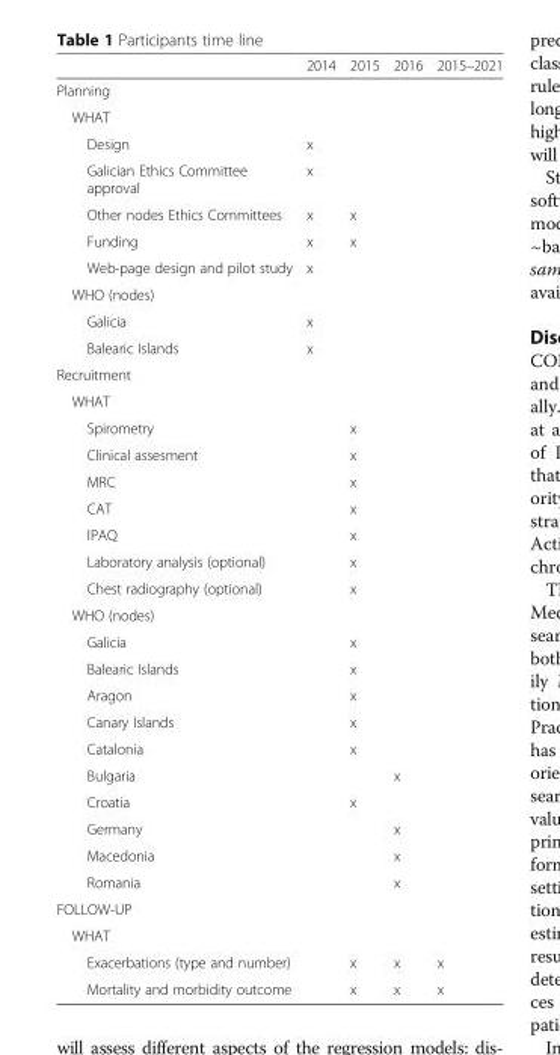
<table><thead><tr><td></td><td>2014</td><td>2015</td><td>2016</td><td>2015–2021</td></tr></thead><tbody><tr><td colspan="5">Planning</td></tr><tr><td colspan="5">WHAT</td></tr><tr><td>Design</td><td>x</td><td></td><td></td><td></td></tr><tr><td>Galician Ethics Committee approval</td><td>x</td><td></td><td></td><td></td></tr><tr><td>Other nodes Ethics Committees</td><td>x</td><td>x</td><td></td><td></td></tr><tr><td>Funding</td><td>x</td><td>x</td><td></td><td></td></tr><tr><td>Web-page design and pilot study</td><td>x</td><td></td><td></td><td></td></tr><tr><td colspan="5">WHO (nodes)</td></tr><tr><td>Galicia</td><td>x</td><td></td><td></td><td></td></tr><tr><td>Balearic Islands</td><td>x</td><td></td><td></td><td></td></tr><tr><td colspan="5">Recruitment</td></tr><tr><td colspan="5">WHAT</td></tr><tr><td>Spirometry</td><td></td><td>x</td><td></td><td></td></tr><tr><td>Clinical assesment</td><td></td><td>x</td><td></td><td></td></tr><tr><td>MRC</td><td></td><td>x</td><td></td><td></td></tr><tr><td>CAT</td><td></td><td>x</td><td></td><td></td></tr><tr><td>IPAQ</td><td></td><td>x</td><td></td><td></td></tr><tr><td>Laboratory analysis (optional)</td><td></td><td>x</td><td></td><td></td></tr><tr><td>Chest radiography (optional)</td><td></td><td>x</td><td></td><td></td></tr><tr><td colspan="5">WHO (nodes)</td></tr><tr><td>Galicia</td><td></td><td>x</td><td></td><td></td></tr><tr><td>Balearic Islands</td><td></td><td>x</td><td></td><td></td></tr><tr><td>Aragon</td><td></td><td>x</td><td></td><td></td></tr><tr><td>Canary Islands</td><td></td><td>x</td><td></td><td></td></tr><tr><td>Catalonia</td><td></td><td>x</td><td></td><td></td></tr><tr><td>Bulgaria</td><td></td><td></td><td>x</td><td></td></tr><tr><td>Croatia</td><td></td><td>x</td><td></td><td></td></tr><tr><td>Germany</td><td></td><td></td><td>x</td><td></td></tr><tr><td>Macedonia</td><td></td><td></td><td>x</td><td></td></tr><tr><td>Romania</td><td></td><td></td><td>x</td><td></td></tr><tr><td colspan="5">FOLLOW-UP</td></tr><tr><td colspan="5">WHAT</td></tr><tr><td>Exacerbations (type and number)</td><td></td><td>x</td><td>x</td><td>x</td></tr><tr><td>Mortality and morbidity outcome</td><td></td><td>x</td><td>x</td><td>x</td></tr></tbody></table>